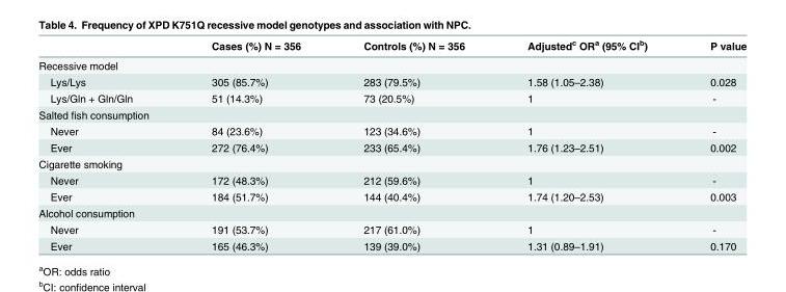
<table><thead><tr><td></td><td>Cases (%) N = 356</td><td>Controls (%) N = 356</td><td>Adjusted<sup>c</sup> OR<sup>a</sup> (95% CI<sup>b</sup>)</td><td>P value</td></tr></thead><tbody><tr><td colspan="5">Recessive model</td></tr><tr><td>Lys/Lys</td><td>305 (85.7%)</td><td>283 (79.5%)</td><td>1.58 (1.05–2.38)</td><td>0.028</td></tr><tr><td>Lys/Gln + Gln/Gln</td><td>51 (14.3%)</td><td>73 (20.5%)</td><td>1</td><td>-</td></tr><tr><td colspan="5">Salted fish consumption</td></tr><tr><td>Never</td><td>84 (23.6%)</td><td>123 (34.6%)</td><td>1</td><td>-</td></tr><tr><td>Ever</td><td>272 (76.4%)</td><td>233 (65.4%)</td><td>1.76 (1.23–2.51)</td><td>0.002</td></tr><tr><td colspan="5">Cigarette smoking</td></tr><tr><td>Never</td><td>172 (48.3%)</td><td>212 (59.6%)</td><td>1</td><td>-</td></tr><tr><td>Ever</td><td>184 (51.7%)</td><td>144 (40.4%)</td><td>1.74 (1.20–2.53)</td><td>0.003</td></tr><tr><td colspan="5">Alcohol consumption</td></tr><tr><td>Never</td><td>191 (53.7%)</td><td>217 (61.0%)</td><td>1</td><td>-</td></tr><tr><td>Ever</td><td>165 (46.3%)</td><td>139 (39.0%)</td><td>1.31 (0.89–1.91)</td><td>0.170</td></tr></tbody></table>